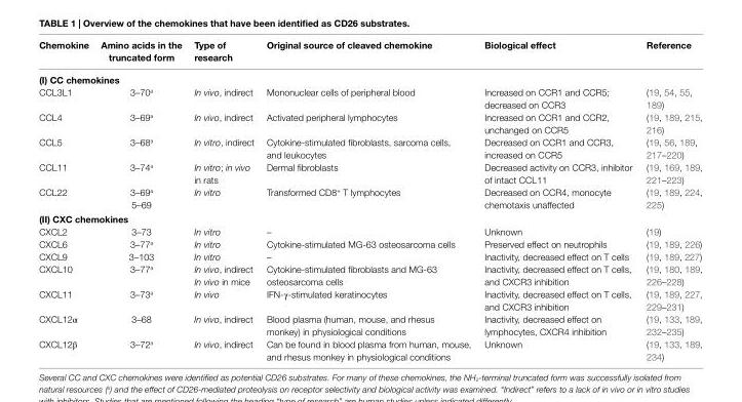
<table><thead><tr><td>Chemokine</td><td>Amino acids in the truncated form</td><td>Type of research</td><td>Original source of cleaved chemokine</td><td>Biological effect</td><td>Reference</td></tr></thead><tbody><tr><td colspan="6">(i) CC chemokines</td></tr><tr><td>CCL3L1</td><td>3–70<sup>a</sup></td><td>In vivo, indirect</td><td>Mononuclear cells of peripheral blood</td><td>Increased on CCR1 and CCR5; decreased on CCR3</td><td>(19, 54, 55, 189)</td></tr><tr><td>CCL4</td><td>3–69<sup>a</sup></td><td>In vivo, indirect</td><td>Activated peripheral lymphocytes</td><td>Increased on CCR1 and CCR2, unchanged on CCR5</td><td>(19, 189, 215, 216)</td></tr><tr><td>CCL5</td><td>3–68<sup>a</sup></td><td>In vitro, indirect</td><td>Cytokine-stimulated fibroblasts, sarcoma cells, and leukocytes</td><td>Decreased on CCR1 and CCR3, increased on CCR5</td><td>(19, 56, 189, 217–220)</td></tr><tr><td>CCL11</td><td>3–74<sup>a</sup></td><td>In vitro; in vivo in rats</td><td>Dermal fibroblasts</td><td>Decreased activity on CCR3, inhibitor of intact CCL11</td><td>(19, 169, 189, 221–223)</td></tr><tr><td rowspan="2">CCL22</td><td>3–69<sup>a</sup></td><td rowspan="2">In vitro</td><td rowspan="2">Transformed CD8<sup>+</sup> T lymphocytes</td><td rowspan="2">Decreased on CCR4, monocyte chemotaxis unaffected</td><td rowspan="2">(19, 189, 224, 225)</td></tr><tr><td>5–69</td></tr><tr><td colspan="6">(ii) CXC chemokines</td></tr><tr><td>CXCL2</td><td>3–73</td><td>In vitro</td><td>–</td><td>Unknown</td><td>(19)</td></tr><tr><td>CXCL6</td><td>3–77<sup>a</sup></td><td>In vitro</td><td>Cytokine-stimulated MG-63 osteosarcoma cells</td><td>Preserved effect on neutrophils</td><td>(19, 189, 226)</td></tr><tr><td>CXCL9</td><td>3–103</td><td>In vitro</td><td>–</td><td>Inactivity, decreased effect on T cells</td><td>(19, 189, 227)</td></tr><tr><td rowspan="2">CXCL10</td><td rowspan="2">3–77<sup>a</sup></td><td>In vivo, indirect</td><td rowspan="2">Cytokine-stimulated fibroblasts and MG-63 osteosarcoma cells</td><td rowspan="2">Inactivity, decreased effect on T cells, and CXCR3 inhibition</td><td rowspan="2">(19, 180, 189, 226–228)</td></tr><tr><td>In vivo in mice</td></tr><tr><td>CXCL11</td><td>3–73<sup>a</sup></td><td>In vivo</td><td>IFN-γ-stimulated keratinocytes</td><td>Inactivity, decreased effect on T cells, and CXCR3 inhibition</td><td>(19, 189, 227, 229–231)</td></tr><tr><td>CXCL12α</td><td>3–68</td><td>In vivo, indirect</td><td>Blood plasma (human, mouse, and rhesus monkey) in physiological conditions</td><td>Inactivity, decreased effect on lymphocytes, CXCR4 inhibition</td><td>(19, 133, 189, 232–235)</td></tr><tr><td>CXCL12β</td><td>3–72<sup>a</sup></td><td>In vivo, indirect</td><td>Can be found in blood plasma from human, mouse, and rhesus monkey in physiological conditions</td><td>Unknown</td><td>(19, 133, 189, 234)</td></tr></tbody></table>